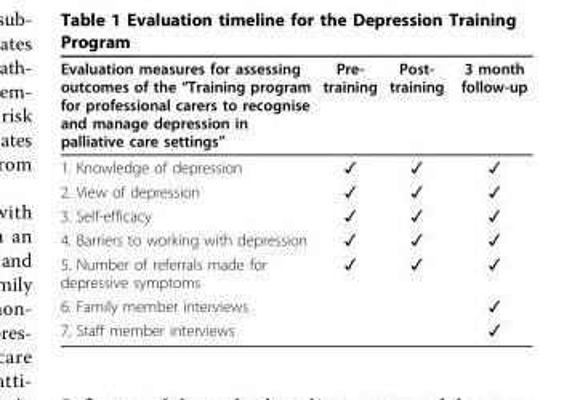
<table><thead><tr><td>Evaluation measures for assessing outcomes of the “Training program for professional carers to recognise and manage depression in palliative care settings”</td><td>Pre- training</td><td>Post- training</td><td>3 month follow-up</td></tr></thead><tbody><tr><td>1. Knowledge of depression</td><td>✓</td><td>✓</td><td>✓</td></tr><tr><td>2. View of depression</td><td>✓</td><td>✓</td><td>✓</td></tr><tr><td>3. Self-efficacy</td><td>✓</td><td>✓</td><td>✓</td></tr><tr><td>4. Barriers to working with depression</td><td>✓</td><td>✓</td><td>✓</td></tr><tr><td>5. Number of referrals made for depressive symptoms</td><td>✓</td><td>✓</td><td>✓</td></tr><tr><td>6. Family member interviews</td><td></td><td></td><td>✓</td></tr><tr><td>7. Staff member interviews</td><td></td><td></td><td>✓</td></tr></tbody></table>